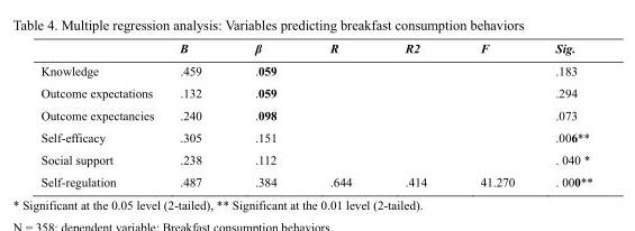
<table><thead><tr><td></td><td>B</td><td>β</td><td>R</td><td>R2</td><td>F</td><td>Sig.</td></tr></thead><tbody><tr><td>Knowledge</td><td>.459</td><td>.059</td><td></td><td></td><td></td><td>.183</td></tr><tr><td>Outcome expectations</td><td>.132</td><td>.059</td><td></td><td></td><td></td><td>.294</td></tr><tr><td>Outcome expectancies</td><td>.240</td><td>.098</td><td></td><td></td><td></td><td>.073</td></tr><tr><td>Self-efficacy</td><td>.305</td><td>.151</td><td></td><td></td><td></td><td>.006**</td></tr><tr><td>Social support</td><td>.238</td><td>.112</td><td></td><td></td><td></td><td>. 040 *</td></tr><tr><td>Self-regulation</td><td>.487</td><td>.384</td><td>.644</td><td>.414</td><td>41.270</td><td>. 000**</td></tr></tbody></table>